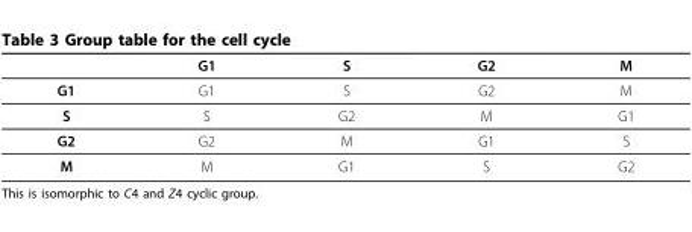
<table><thead><tr><td></td><td>G1</td><td>S</td><td>G2</td><td>M</td></tr></thead><tbody><tr><td>G1</td><td>G1</td><td>S</td><td>G2</td><td>M</td></tr><tr><td>S</td><td>S</td><td>G2</td><td>M</td><td>G1</td></tr><tr><td>G2</td><td>G2</td><td>M</td><td>G1</td><td>S</td></tr><tr><td>M</td><td>M</td><td>G1</td><td>S</td><td>G2</td></tr></tbody></table>